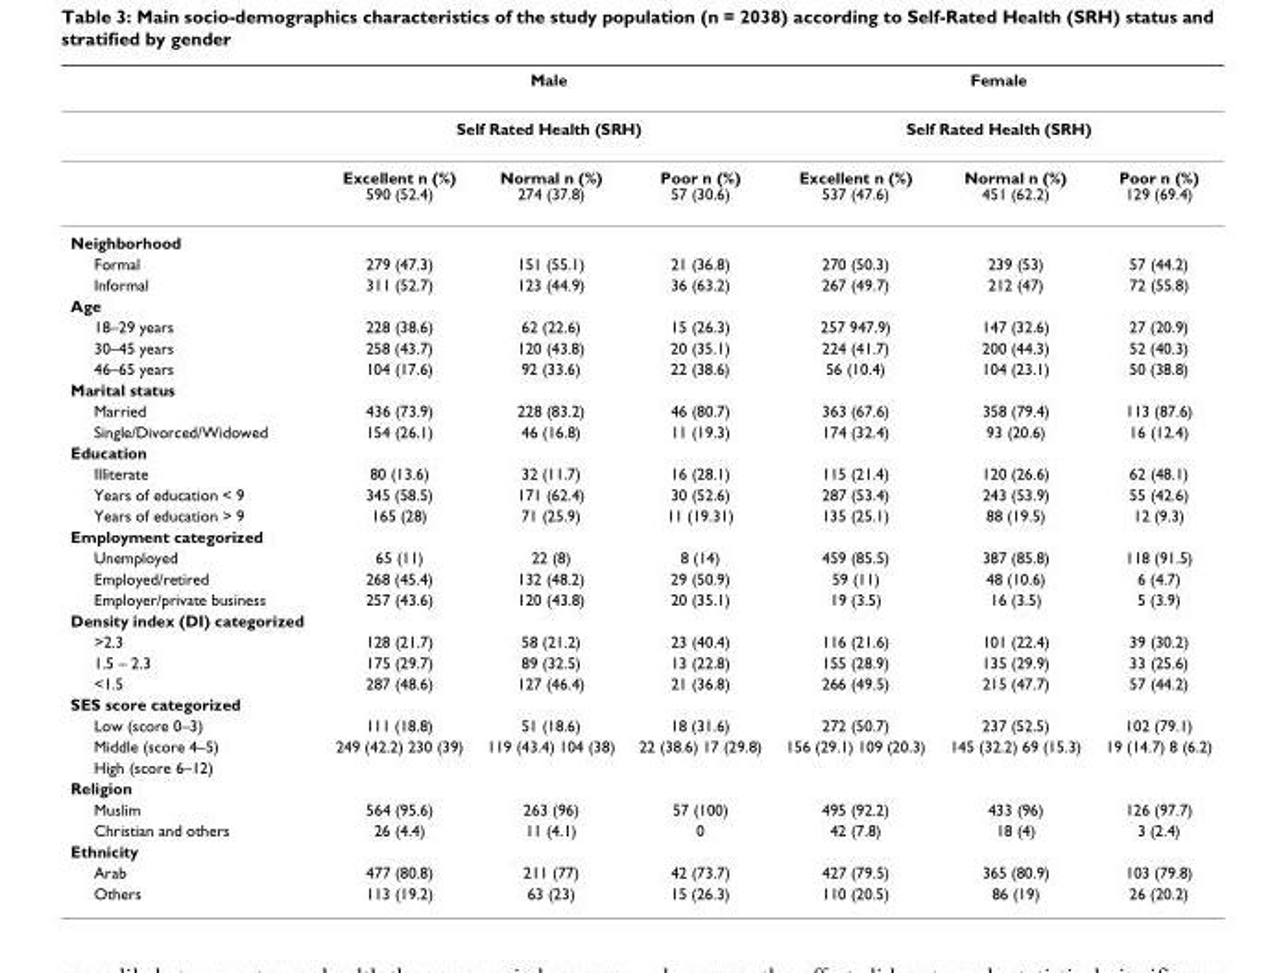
<table><thead><tr><td rowspan="3"></td><td rowspan="2" colspan="3">Male Self Rated Health (SRH)</td><td rowspan="2" colspan="3">Female Self Rated Health (SRH)</td></tr><tr></tr><tr><td>Excellent n (%) 590 (52.4)</td><td>Normal n (%) 274 (37.8)</td><td>Poor n (%) 57 (30.6)</td><td>Excellent n (%) 537 (47.6)</td><td>Normal n (%) 451 (62.2)</td><td>Poor n (%) 129 (69.4)</td></tr></thead><tbody><tr><td colspan="7">Neighborhood</td></tr><tr><td>Formal</td><td>279 (47.3)</td><td>151 (55.1)</td><td>21 (36.8)</td><td>270 (50.3)</td><td>239 (53)</td><td>57 (44.2)</td></tr><tr><td>Informal</td><td>311 (52.7)</td><td>123 (44.9)</td><td>36 (63.2)</td><td>267 (49.7)</td><td>212 (47)</td><td>72 (55.8)</td></tr><tr><td colspan="7">Age</td></tr><tr><td>18–29 years</td><td>228 (38.6)</td><td>62 (22.6)</td><td>15 (26.3)</td><td>257 947.9)</td><td>147 (32.6)</td><td>27 (20.9)</td></tr><tr><td>30–45 years</td><td>258 (43.7)</td><td>120 (43.8)</td><td>20 (35.1)</td><td>224 (41.7)</td><td>200 (44.3)</td><td>52 (40.3)</td></tr><tr><td>46–65 years</td><td>104 (17.6)</td><td>92 (33.6)</td><td>22 (38.6)</td><td>56 (10.4)</td><td>104 (23.1)</td><td>50 (38.8)</td></tr><tr><td colspan="7">Marital status</td></tr><tr><td>Married</td><td>436 (73.9)</td><td>228 (83.2)</td><td>46 (80.7)</td><td>363 (67.6)</td><td>358 (79.4)</td><td>113 (87.6)</td></tr><tr><td>Single/Divorced/Widowed</td><td>154 (26.1)</td><td>46 (16.8)</td><td>11 (19.3)</td><td>174 (32.4)</td><td>93 (20.6)</td><td>16 (12.4)</td></tr><tr><td colspan="7">Education</td></tr><tr><td>Illiterate</td><td>80 (13.6)</td><td>32 (11.7)</td><td>16 (28.1)</td><td>115 (21.4)</td><td>120 (26.6)</td><td>62 (48.1)</td></tr><tr><td>Years of education &lt; 9</td><td>345 (58.5)</td><td>171 (62.4)</td><td>30 (52.6)</td><td>287 (53.4)</td><td>243 (53.9)</td><td>55 (42.6)</td></tr><tr><td>Years of education &gt; 9</td><td>165 (28)</td><td>71 (25.9)</td><td>11 (19.31)</td><td>135 (25.1)</td><td>88 (19.5)</td><td>12 (9.3)</td></tr><tr><td colspan="7">Employment categorized</td></tr><tr><td>Unemployed</td><td>65 (11)</td><td>22 (8)</td><td>8 (14)</td><td>459 (85.5)</td><td>387 (85.8)</td><td>118 (91.5)</td></tr><tr><td>Employed/retired</td><td>268 (45.4)</td><td>132 (48.2)</td><td>29 (50.9)</td><td>59 (11)</td><td>48 (10.6)</td><td>6 (4.7)</td></tr><tr><td>Employer/private business</td><td>257 (43.6)</td><td>120 (43.8)</td><td>20 (35.1)</td><td>19 (3.5)</td><td>16 (3.5)</td><td>5 (3.9)</td></tr><tr><td colspan="7">Density index (DI) categorized</td></tr><tr><td>&gt;2.3</td><td>128 (21.7)</td><td>58 (21.2)</td><td>23 (40.4)</td><td>116 (21.6)</td><td>101 (22.4)</td><td>39 (30.2)</td></tr><tr><td>1.5 – 2.3</td><td>175 (29.7)</td><td>89 (32.5)</td><td>13 (22.8)</td><td>155 (28.9)</td><td>135 (29.9)</td><td>33 (25.6)</td></tr><tr><td>&lt;1.5</td><td>287 (48.6)</td><td>127 (46.4)</td><td>21 (36.8)</td><td>266 (49.5)</td><td>215 (47.7)</td><td>57 (44.2)</td></tr><tr><td colspan="7">SES score categorized</td></tr><tr><td>Low (score 0–3)</td><td>111 (18.8)</td><td>51 (18.6)</td><td>18 (31.6)</td><td>272 (50.7)</td><td>237 (52.5)</td><td>102 (79.1)</td></tr><tr><td>Middle (score 4–5)</td><td>249 (42.2) 230 (39)</td><td>119 (43.4) 104 (38)</td><td>22 (38.6) 17 (29.8)</td><td>156 (29.1) 109 (20.3)</td><td>145 (32.2) 69 (15.3)</td><td>19 (14.7) 8 (6.2)</td></tr><tr><td colspan="7">High (score 6–12)</td></tr><tr><td colspan="7">Religion</td></tr><tr><td>Muslim</td><td>564 (95.6)</td><td>263 (96)</td><td>57 (100)</td><td>495 (92.2)</td><td>433 (96)</td><td>126 (97.7)</td></tr><tr><td>Christian and others</td><td>26 (4.4)</td><td>11 (4.1)</td><td>0</td><td>42 (7.8)</td><td>18 (4)</td><td>3 (2.4)</td></tr><tr><td colspan="7">Ethnicity</td></tr><tr><td>Arab</td><td>477 (80.8)</td><td>211 (77)</td><td>42 (73.7)</td><td>427 (79.5)</td><td>365 (80.9)</td><td>103 (79.8)</td></tr><tr><td>Others</td><td>113 (19.2)</td><td>63 (23)</td><td>15 (26.3)</td><td>110 (20.5)</td><td>86 (19)</td><td>26 (20.2)</td></tr></tbody></table>